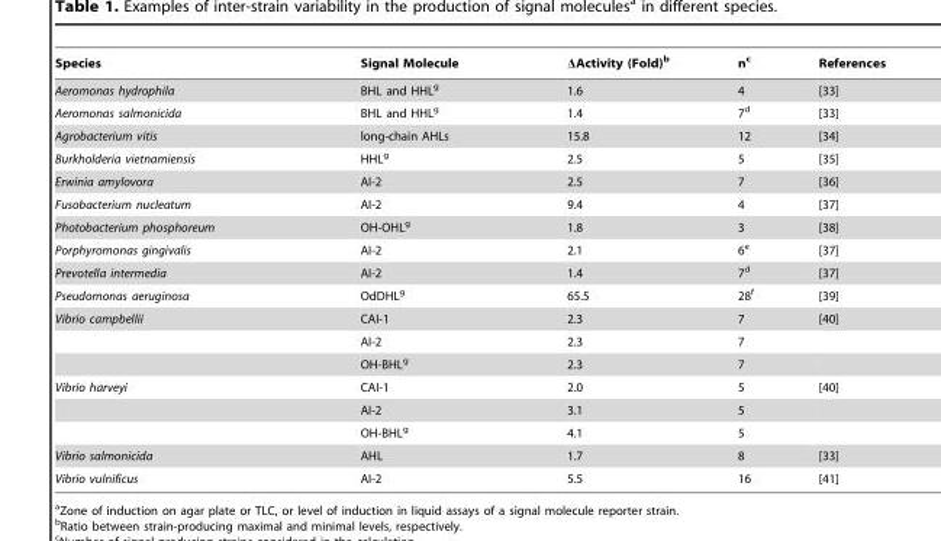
<table><thead><tr><td>Species</td><td>Signal Molecule</td><td>ΔActivity (Fold)<sup>b</sup></td><td>n<sup>c</sup></td><td>References</td></tr></thead><tbody><tr><td>Aeromonas hydrophila</td><td>BHL and HHL<sup>g</sup></td><td>1.6</td><td>4</td><td>[33]</td></tr><tr><td>Aeromonas salmonicida</td><td>BHL and HHL<sup>g</sup></td><td>1.4</td><td>7<sup>d</sup></td><td>[33]</td></tr><tr><td>Agrobacterium vitis</td><td>long-chain AHLs</td><td>15.8</td><td>12</td><td>[34]</td></tr><tr><td>Burkholderia vietnamiensis</td><td>HHL<sup>g</sup></td><td>2.5</td><td>5</td><td>[35]</td></tr><tr><td>Erwinia amylovora</td><td>AI-2</td><td>2.5</td><td>7</td><td>[36]</td></tr><tr><td>Fusobacterium nucleatum</td><td>AI-2</td><td>9.4</td><td>4</td><td>[37]</td></tr><tr><td>Photobacterium phosphoreum</td><td>OH-OHL<sup>g</sup></td><td>1.8</td><td>3</td><td>[38]</td></tr><tr><td>Porphyromonas gingivalis</td><td>AI-2</td><td>2.1</td><td>6<sup>e</sup></td><td>[37]</td></tr><tr><td>Prevotella intermedia</td><td>AI-2</td><td>1.4</td><td>7<sup>d</sup></td><td>[37]</td></tr><tr><td>Pseudomonas aeruginosa</td><td>OdDHL<sup>g</sup></td><td>65.5</td><td>28<sup>f</sup></td><td>[39]</td></tr><tr><td rowspan="3">Vibrio campbellii</td><td>CAI-1</td><td>2.3</td><td>7</td><td>[40]</td></tr><tr><td>AI-2</td><td>2.3</td><td>7</td><td></td></tr><tr><td>OH-BHL<sup>g</sup></td><td>2.3</td><td>7</td><td></td></tr><tr><td rowspan="3">Vibrio harveyi</td><td>CAI-1</td><td>2.0</td><td>5</td><td>[40]</td></tr><tr><td>AI-2</td><td>3.1</td><td>5</td><td></td></tr><tr><td>OH-BHL<sup>g</sup></td><td>4.1</td><td>5</td><td></td></tr><tr><td>Vibrio salmonicida</td><td>AHL</td><td>1.7</td><td>8</td><td>[33]</td></tr><tr><td>Vibrio vulnificus</td><td>AI-2</td><td>5.5</td><td>16</td><td>[41]</td></tr></tbody></table>